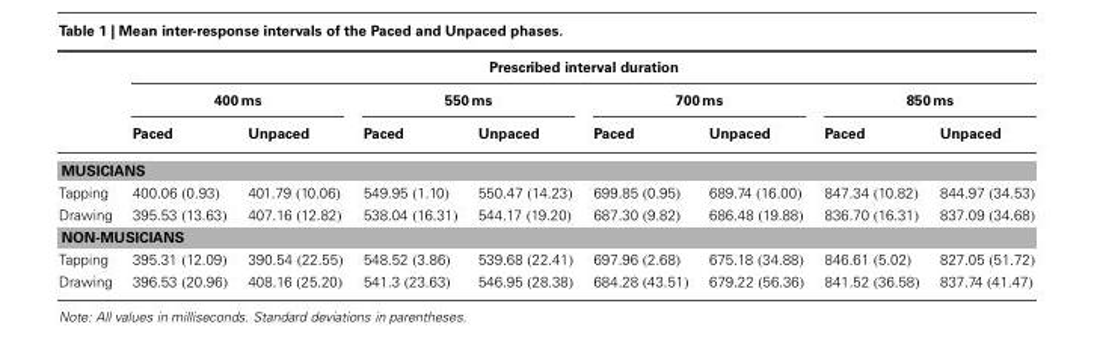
<table><thead><tr><td rowspan="3"></td><td colspan="8">Prescribed interval duration</td></tr><tr><td colspan="2">400 ms</td><td colspan="2">550 ms</td><td colspan="2">700 ms</td><td colspan="2">850ms</td></tr><tr><td>Paced</td><td>Unpaced</td><td>Paced</td><td>Unpaced</td><td>Paced</td><td>Unpaced</td><td>Paced</td><td>Unpaced</td></tr></thead><tbody><tr><td colspan="9">MUSICIANS</td></tr><tr><td>Tapping</td><td>400.06 (0.93)</td><td>401.79 (10.06)</td><td>549.95 (1.10)</td><td>550.47 (14.23)</td><td>699.85 (0.95)</td><td>689.74 (16.00)</td><td>847.34 (10.82)</td><td>844.97 (34.53)</td></tr><tr><td>Drawing</td><td>395.53 (13.63)</td><td>407.16 (12.82)</td><td>538.04 (16.31)</td><td>544.17 (19.20)</td><td>687.30 (9.82)</td><td>686.48 (19.88)</td><td>836.70 (16.31)</td><td>837.09 (34.68)</td></tr><tr><td colspan="9">NON-MUSICIANS</td></tr><tr><td>Tapping</td><td>395.31 (12.09)</td><td>390.54 (22.55)</td><td>548.52 (3.86)</td><td>539.68 (22.41)</td><td>697.96 (2.68)</td><td>675.18 (34.88)</td><td>846.61 (5.02)</td><td>827.05 (51.72)</td></tr><tr><td>Drawing</td><td>396.53 (20.96)</td><td>408.16 (25.20)</td><td>541.3 (23.63)</td><td>546.95 (28.38)</td><td>684.28 (43.51)</td><td>679.22 (56.36)</td><td>841.52 (36.58)</td><td>837.74 (41.47)</td></tr></tbody></table>